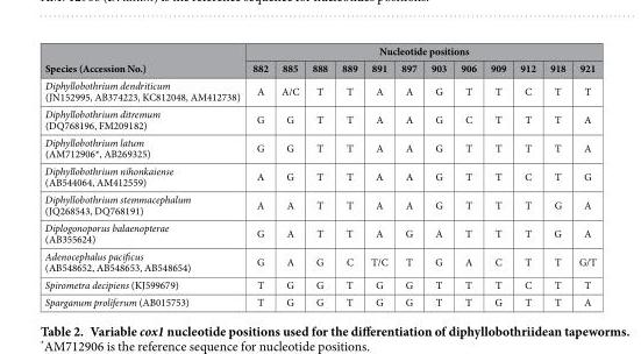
<table><thead><tr><td rowspan="2">Species (Accession No.)</td><td colspan="12">Nucleotide positions</td></tr><tr><td>882</td><td>885</td><td>888</td><td>889</td><td>891</td><td>897</td><td>903</td><td>906</td><td>909</td><td>912</td><td>918</td><td>921</td></tr></thead><tbody><tr><td>Diphyllobothrium dendriticum (JN152995, AB374223, KC812048, AM412738)</td><td>A</td><td>A/C</td><td>T</td><td>T</td><td>A</td><td>A</td><td>G</td><td>T</td><td>T</td><td>C</td><td>T</td><td>T</td></tr><tr><td>Diphyllobothrium ditremum (DQ768196, FM209182)</td><td>G</td><td>G</td><td>T</td><td>T</td><td>A</td><td>A</td><td>G</td><td>C</td><td>T</td><td>T</td><td>T</td><td>A</td></tr><tr><td>Diphyllobothrium latum (AM712906*, AB269325)</td><td>G</td><td>G</td><td>T</td><td>T</td><td>A</td><td>A</td><td>G</td><td>T</td><td>T</td><td>T</td><td>T</td><td>A</td></tr><tr><td>Diphyllobothrium nihonkaiense (AB544064, AM412559)</td><td>A</td><td>G</td><td>T</td><td>T</td><td>A</td><td>A</td><td>G</td><td>T</td><td>T</td><td>C</td><td>T</td><td>G</td></tr><tr><td>Diphyllobothrium stemmacephalum (JQ268543, DQ768191)</td><td>A</td><td>A</td><td>T</td><td>T</td><td>A</td><td>A</td><td>G</td><td>T</td><td>T</td><td>T</td><td>G</td><td>A</td></tr><tr><td>Diplogonoporus balaenopterae (AB355624)</td><td>G</td><td>A</td><td>T</td><td>T</td><td>A</td><td>G</td><td>A</td><td>T</td><td>T</td><td>T</td><td>G</td><td>A</td></tr><tr><td>Adenocephalus pacificus (AB548652, AB548653, AB548654)</td><td>G</td><td>A</td><td>G</td><td>C</td><td>T/C</td><td>T</td><td>G</td><td>A</td><td>C</td><td>T</td><td>T</td><td>G/T</td></tr><tr><td>Spirometra decipiens (KJ599679)</td><td>T</td><td>G</td><td>G</td><td>T</td><td>G</td><td>G</td><td>T</td><td>T</td><td>T</td><td>C</td><td>T</td><td>T</td></tr><tr><td>Sparganum proliferum (AB015753)</td><td>T</td><td>G</td><td>G</td><td>T</td><td>G</td><td>G</td><td>T</td><td>T</td><td>G</td><td>T</td><td>T</td><td>A</td></tr></tbody></table>